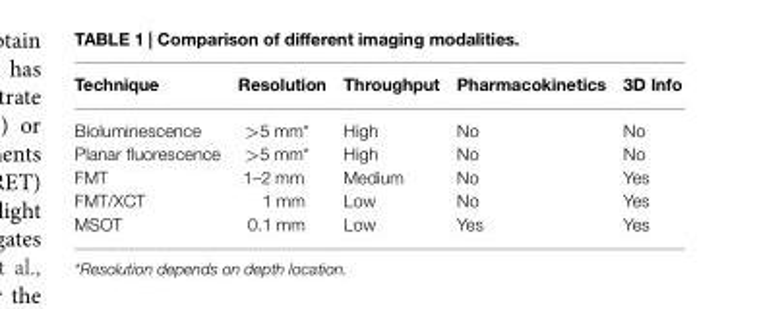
<table><thead><tr><td>Technique</td><td>Resolution</td><td>Throughput</td><td>Pharmacokinetics</td><td>3D Info</td></tr></thead><tbody><tr><td>Bioluminescence</td><td>&gt;5 mm*</td><td>High</td><td>No</td><td>No</td></tr><tr><td>Planar fluorescence</td><td>&gt;5 mm*</td><td>High</td><td>No</td><td>No</td></tr><tr><td>FMT</td><td>1–2 mm</td><td>Medium</td><td>No</td><td>Yes</td></tr><tr><td>FMT/XCT</td><td>1 mm</td><td>Low</td><td>No</td><td>Yes</td></tr><tr><td>MSOT</td><td>0.1 mm</td><td>Low</td><td>Yes</td><td>Yes</td></tr></tbody></table>